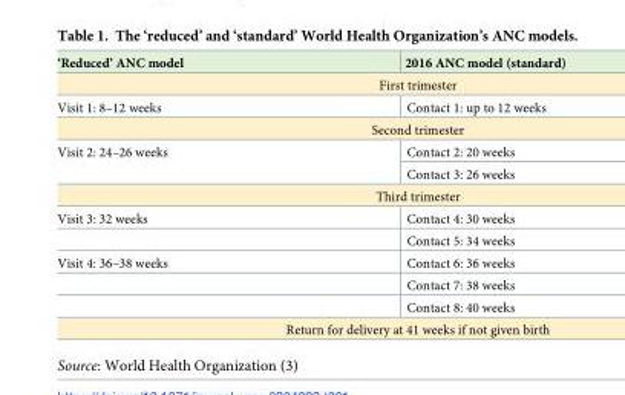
<table><thead><tr><td>‘Reduced’ ANC model</td><td>2016 ANC model (standard)</td></tr></thead><tbody><tr><td colspan="2">First trimester</td></tr><tr><td>Visit 1: 8–12 weeks</td><td>Contact 1: up to 12 weeks</td></tr><tr><td colspan="2">Second trimester</td></tr><tr><td rowspan="2">Visit 2: 24–26 weeks</td><td>Contact 2: 20 weeks</td></tr><tr><td>Contact 3: 26 weeks</td></tr><tr><td colspan="2">Third trimester</td></tr><tr><td rowspan="2">Visit 3: 32 weeks</td><td>Contact 4: 30 weeks</td></tr><tr><td>Contact 5: 34 weeks</td></tr><tr><td rowspan="3">Visit 4: 36–38 weeks</td><td>Contact 6: 36 weeks</td></tr><tr><td>Contact 7: 38 weeks</td></tr><tr><td>Contact 8: 40 weeks</td></tr><tr><td colspan="2">Return for delivery at 41 weeks if not given birth</td></tr></tbody></table>